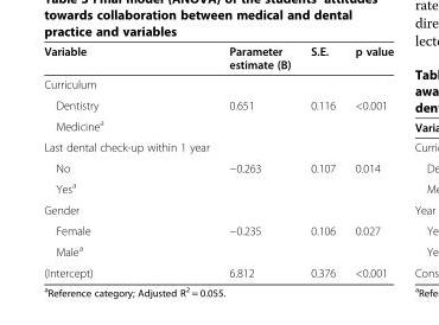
<table><thead><tr><td>Variable</td><td>Parameter estimate (B)</td><td>S.E.</td><td>p value</td></tr></thead><tbody><tr><td colspan="4">Curriculum</td></tr><tr><td>Dentistry</td><td>0.651</td><td>0.116</td><td>&lt;0.001</td></tr><tr><td colspan="4">Medicine<sup>a</sup></td></tr><tr><td colspan="4">Last dental check-up within 1 year</td></tr><tr><td>No</td><td>−0.263</td><td>0.107</td><td>0.014</td></tr><tr><td colspan="4">Yes<sup>a</sup></td></tr><tr><td colspan="4">Gender</td></tr><tr><td>Female</td><td>−0.235</td><td>0.106</td><td>0.027</td></tr><tr><td colspan="4">Male<sup>a</sup></td></tr><tr><td>(Intercept)</td><td>6.812</td><td>0.376</td><td>&lt;0.001</td></tr></tbody></table>